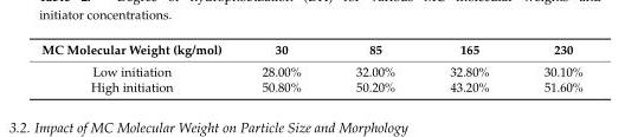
<table><thead><tr><td>MC Molecular Weight (kg/mol)</td><td>30</td><td>85</td><td>165</td><td>230</td></tr></thead><tbody><tr><td>Low initiation</td><td>28.00%</td><td>32.00%</td><td>32.80%</td><td>30.10%</td></tr><tr><td>High initiation</td><td>50.80%</td><td>50.20%</td><td>43.20%</td><td>51.60%</td></tr></tbody></table>